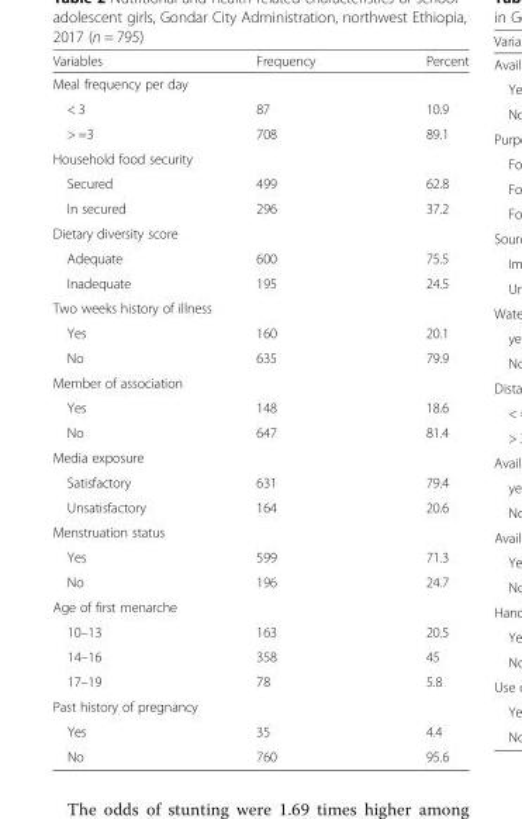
<table><thead><tr><td>Variables</td><td>Frequency</td><td>Percent</td></tr></thead><tbody><tr><td colspan="3">Meal frequency per day</td></tr><tr><td>&lt; 3</td><td>87</td><td>10.9</td></tr><tr><td>&gt; =3</td><td>708</td><td>89.1</td></tr><tr><td colspan="3">Household food security</td></tr><tr><td>Secured</td><td>499</td><td>62.8</td></tr><tr><td>In secured</td><td>296</td><td>37.2</td></tr><tr><td colspan="3">Dietary diversity score</td></tr><tr><td>Adequate</td><td>600</td><td>75.5</td></tr><tr><td>Inadequate</td><td>195</td><td>24.5</td></tr><tr><td colspan="3">Two weeks history of illness</td></tr><tr><td>Yes</td><td>160</td><td>20.1</td></tr><tr><td>No</td><td>635</td><td>79.9</td></tr><tr><td colspan="3">Member of association</td></tr><tr><td>Yes</td><td>148</td><td>18.6</td></tr><tr><td>No</td><td>647</td><td>81.4</td></tr><tr><td colspan="3">Media exposure</td></tr><tr><td>Satisfactory</td><td>631</td><td>79.4</td></tr><tr><td>Unsatisfactory</td><td>164</td><td>20.6</td></tr><tr><td colspan="3">Menstruation status</td></tr><tr><td>Yes</td><td>599</td><td>71.3</td></tr><tr><td>No</td><td>196</td><td>24.7</td></tr><tr><td colspan="3">Age of first menarche</td></tr><tr><td>10–13</td><td>163</td><td>20.5</td></tr><tr><td>14–16</td><td>358</td><td>45</td></tr><tr><td>17–19</td><td>78</td><td>5.8</td></tr><tr><td colspan="3">Past history of pregnancy</td></tr><tr><td>Yes</td><td>35</td><td>4.4</td></tr><tr><td>No</td><td>760</td><td>95.6</td></tr></tbody></table>